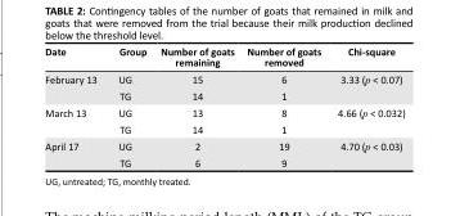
<table><thead><tr><td>Date</td><td>Group</td><td>Number of goats remaining</td><td>Number of goats removed</td><td>Chi-square</td></tr></thead><tbody><tr><td rowspan="2">February 13</td><td>UG</td><td>15</td><td>6</td><td>3.33 (p &lt; 0.07)</td></tr><tr><td>TG</td><td>14</td><td>1</td><td></td></tr><tr><td rowspan="2">March 13</td><td>UG</td><td>13</td><td>8</td><td>4.66 (p &lt; 0.032)</td></tr><tr><td>TG</td><td>14</td><td>1</td><td></td></tr><tr><td rowspan="2">April 17</td><td>UG</td><td>2</td><td>19</td><td>4.70 (p &lt; 0.03)</td></tr><tr><td>TG</td><td>6</td><td>9</td><td></td></tr></tbody></table>